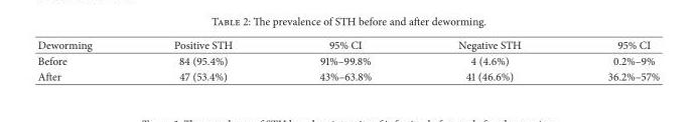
<table><thead><tr><td>Deworming</td><td>Positive STH</td><td>95% CI</td><td>Negative STH</td><td>95% CI</td></tr></thead><tbody><tr><td>Before</td><td>84 (95.4%)</td><td>91%–99.8%</td><td>4 (4.6%)</td><td>0.2%–9%</td></tr><tr><td>After</td><td>47 (53.4%)</td><td>43%–63.8%</td><td>41 (46.6%)</td><td>36.2%–57%</td></tr></tbody></table>